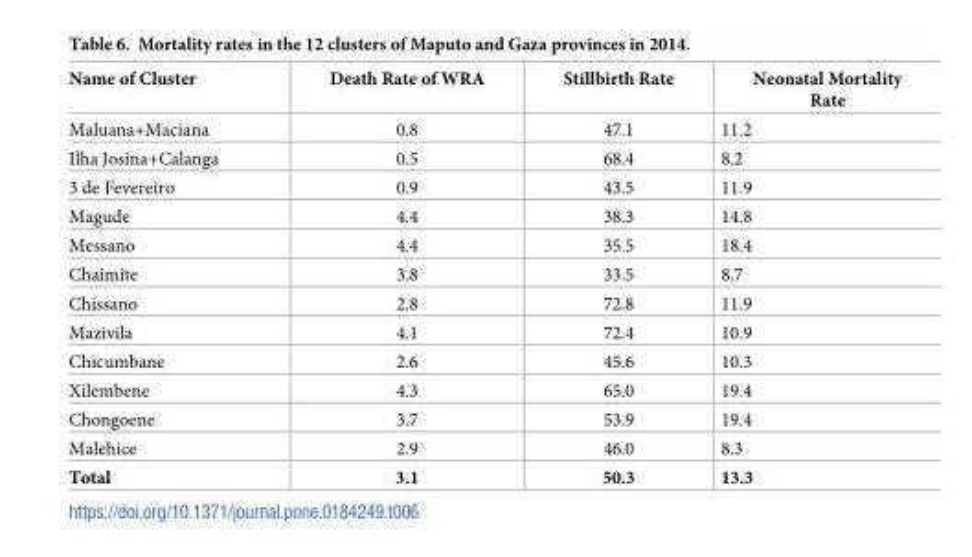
<table><thead><tr><td>Name of Cluster</td><td>Death Rate of WRA</td><td>Stillbirth Rate</td><td>Neonatal Mortality Rate</td></tr></thead><tbody><tr><td>Maluana+Maciana</td><td>0.8</td><td>47.1</td><td>11.2</td></tr><tr><td>Ilha Josina+Calanga</td><td>0.5</td><td>68.4</td><td>8.2</td></tr><tr><td>3 de Fevereiro</td><td>0.9</td><td>43.5</td><td>11.9</td></tr><tr><td>Magude</td><td>4.4</td><td>38.3</td><td>14.8</td></tr><tr><td>Messano</td><td>4.4</td><td>35.5</td><td>18.4</td></tr><tr><td>Chaimite</td><td>3.8</td><td>33.5</td><td>8.7</td></tr><tr><td>Chissano</td><td>2.8</td><td>72.8</td><td>11.9</td></tr><tr><td>Mazivila</td><td>4.1</td><td>72.4</td><td>10.9</td></tr><tr><td>Chicumbane</td><td>2.6</td><td>45.6</td><td>10.3</td></tr><tr><td>Xilembene</td><td>4.3</td><td>65.0</td><td>19.4</td></tr><tr><td>Chongoene</td><td>3.7</td><td>53.9</td><td>19.4</td></tr><tr><td>Malehice</td><td>2.9</td><td>46.0</td><td>8.3</td></tr><tr><td>Total</td><td>3.1</td><td>50.3</td><td>13.3</td></tr></tbody></table>